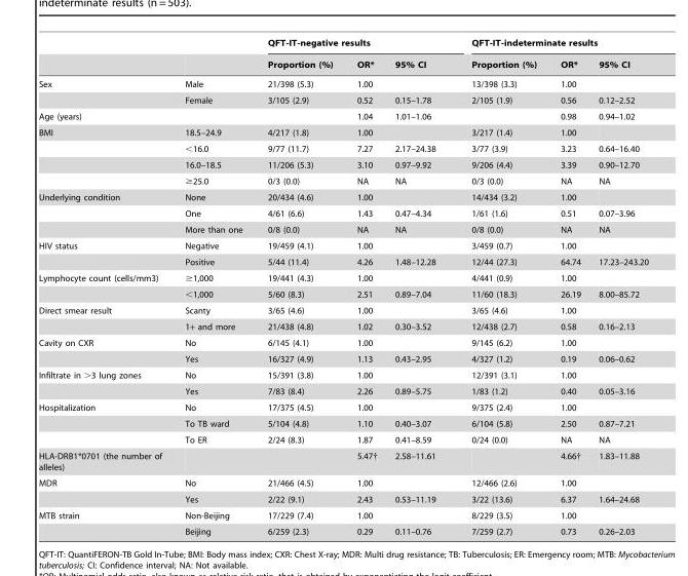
<table><thead><tr><td rowspan="2"></td><td rowspan="2"></td><td colspan="3">QFT-IT-negative results</td><td colspan="3">QFT-IT-indeterminate results</td></tr><tr><td>Proportion (%)</td><td>OR*</td><td>95% CI</td><td>Proportion (%)</td><td>OR*</td><td>95% CI</td></tr></thead><tbody><tr><td rowspan="2">Sex</td><td>Male</td><td>21/398 (5.3)</td><td>1.00</td><td></td><td>13/398 (3.3)</td><td>1.00</td><td></td></tr><tr><td>Female</td><td>3/105 (2.9)</td><td>0.52</td><td>0.15–1.78</td><td>2/105 (1.9)</td><td>0.56</td><td>0.12–2.52</td></tr><tr><td>Age (years)</td><td></td><td></td><td>1.04</td><td>1.01–1.06</td><td></td><td>0.98</td><td>0.94–1.02</td></tr><tr><td rowspan="4">BMI</td><td>18.5–24.9</td><td>4/217 (1.8)</td><td>1.00</td><td></td><td>3/217 (1.4)</td><td>1.00</td><td></td></tr><tr><td>&lt;16.0</td><td>9/77 (11.7)</td><td>7.27</td><td>2.17–24.38</td><td>3/77 (3.9)</td><td>3.23</td><td>0.64–16.40</td></tr><tr><td>16.0–18.5</td><td>11/206 (5.3)</td><td>3.10</td><td>0.97–9.92</td><td>9/206 (4.4)</td><td>3.39</td><td>0.90–12.70</td></tr><tr><td>≥25.0</td><td>0/3 (0.0)</td><td>NA</td><td>NA</td><td>0/3 (0.0)</td><td>NA</td><td>NA</td></tr><tr><td rowspan="3">Underlying condition</td><td>None</td><td>20/434 (4.6)</td><td>1.00</td><td></td><td>14/434 (3.2)</td><td>1.00</td><td></td></tr><tr><td>One</td><td>4/61 (6.6)</td><td>1.43</td><td>0.47–4.34</td><td>1/61 (1.6)</td><td>0.51</td><td>0.07–3.96</td></tr><tr><td>More than one</td><td>0/8 (0.0)</td><td>NA</td><td>NA</td><td>0/8 (0.0)</td><td>NA</td><td>NA</td></tr><tr><td rowspan="2">HIV status</td><td>Negative</td><td>19/459 (4.1)</td><td>1.00</td><td></td><td>3/459 (0.7)</td><td>1.00</td><td></td></tr><tr><td>Positive</td><td>5/44 (11.4)</td><td>4.26</td><td>1.48–12.28</td><td>12/44 (27.3)</td><td>64.74</td><td>17.23–243.20</td></tr><tr><td rowspan="2">Lymphocyte count (cells/mm3)</td><td>≥1,000</td><td>19/441 (4.3)</td><td>1.00</td><td></td><td>4/441 (0.9)</td><td>1.00</td><td></td></tr><tr><td>&lt;1,000</td><td>5/60 (8.3)</td><td>2.51</td><td>0.89–7.04</td><td>11/60 (18.3)</td><td>26.19</td><td>8.00–85.72</td></tr><tr><td rowspan="2">Direct smear result</td><td>Scanty</td><td>3/65 (4.6)</td><td>1.00</td><td></td><td>3/65 (4.6)</td><td>1.00</td><td></td></tr><tr><td>1+ and more</td><td>21/438 (4.8)</td><td>1.02</td><td>0.30–3.52</td><td>12/438 (2.7)</td><td>0.58</td><td>0.16–2.13</td></tr><tr><td rowspan="2">Cavity on CXR</td><td>No</td><td>6/145 (4.1)</td><td>1.00</td><td></td><td>9/145 (6.2)</td><td>1.00</td><td></td></tr><tr><td>Yes</td><td>16/327 (4.9)</td><td>1.13</td><td>0.43–2.95</td><td>4/327 (1.2)</td><td>0.19</td><td>0.06–0.62</td></tr><tr><td rowspan="2">Infiltrate in &gt;3 lung zones</td><td>No</td><td>15/391 (3.8)</td><td>1.00</td><td></td><td>12/391 (3.1)</td><td>1.00</td><td></td></tr><tr><td>Yes</td><td>7/83 (8.4)</td><td>2.26</td><td>0.89–5.75</td><td>1/83 (1.2)</td><td>0.40</td><td>0.05–3.16</td></tr><tr><td rowspan="3">Hospitalization</td><td>No</td><td>17/375 (4.5)</td><td>1.00</td><td></td><td>9/375 (2.4)</td><td>1.00</td><td></td></tr><tr><td>To TB ward</td><td>5/104 (4.8)</td><td>1.10</td><td>0.40–3.07</td><td>6/104 (5.8)</td><td>2.50</td><td>0.87–7.21</td></tr><tr><td>To ER</td><td>2/24 (8.3)</td><td>1.87</td><td>0.41–8.59</td><td>0/24 (0.0)</td><td>NA</td><td>NA</td></tr><tr><td>HLA-DRB1*0701 (the number of alleles)</td><td></td><td></td><td>5.47†</td><td>2.58–11.61</td><td></td><td>4.66†</td><td>1.83–11.88</td></tr><tr><td rowspan="2">MDR</td><td>No</td><td>21/466 (4.5)</td><td>1.00</td><td></td><td>12/466 (2.6)</td><td>1.00</td><td></td></tr><tr><td>Yes</td><td>2/22 (9.1)</td><td>2.43</td><td>0.53–11.19</td><td>3/22 (13.6)</td><td>6.37</td><td>1.64–24.68</td></tr><tr><td rowspan="2">MTB strain</td><td>Non-Beijing</td><td>17/229 (7.4)</td><td>1.00</td><td></td><td>8/229 (3.5)</td><td>1.00</td><td></td></tr><tr><td>Beijing</td><td>6/259 (2.3)</td><td>0.29</td><td>0.11–0.76</td><td>7/259 (2.7)</td><td>0.73</td><td>0.26–2.03</td></tr></tbody></table>